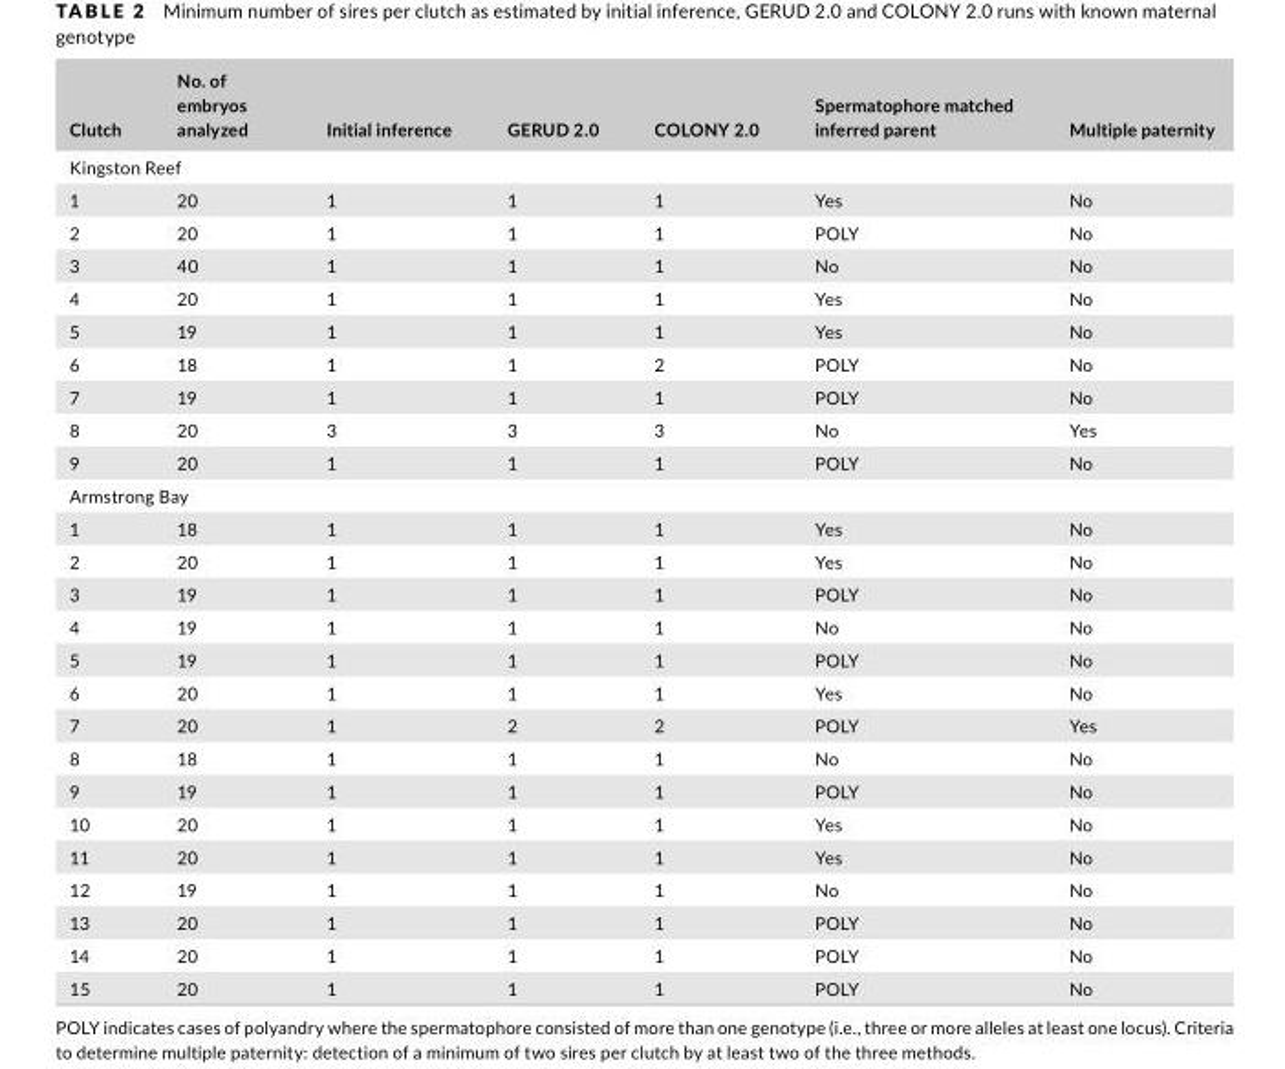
<table><thead><tr><td>Clutch</td><td>No. of embryos analyzed</td><td>Initial inference</td><td>GERUD 2.0</td><td>COLONY 2.0</td><td>Spermatophore matched inferred parent</td><td>Multiple paternity</td></tr></thead><tbody><tr><td colspan="7">Kingston Reef</td></tr><tr><td>1</td><td>20</td><td>1</td><td>1</td><td>1</td><td>Yes</td><td>No</td></tr><tr><td>2</td><td>20</td><td>1</td><td>1</td><td>1</td><td>POLY</td><td>No</td></tr><tr><td>3</td><td>40</td><td>1</td><td>1</td><td>1</td><td>No</td><td>No</td></tr><tr><td>4</td><td>20</td><td>1</td><td>1</td><td>1</td><td>Yes</td><td>No</td></tr><tr><td>5</td><td>19</td><td>1</td><td>1</td><td>1</td><td>Yes</td><td>No</td></tr><tr><td>6</td><td>18</td><td>1</td><td>1</td><td>2</td><td>POLY</td><td>No</td></tr><tr><td>7</td><td>19</td><td>1</td><td>1</td><td>1</td><td>POLY</td><td>No</td></tr><tr><td>8</td><td>20</td><td>3</td><td>3</td><td>3</td><td>No</td><td>Yes</td></tr><tr><td>9</td><td>20</td><td>1</td><td>1</td><td>1</td><td>POLY</td><td>No</td></tr><tr><td colspan="7">Armstrong Bay</td></tr><tr><td>1</td><td>18</td><td>1</td><td>1</td><td>1</td><td>Yes</td><td>No</td></tr><tr><td>2</td><td>20</td><td>1</td><td>1</td><td>1</td><td>Yes</td><td>No</td></tr><tr><td>3</td><td>19</td><td>1</td><td>1</td><td>1</td><td>POLY</td><td>No</td></tr><tr><td>4</td><td>19</td><td>1</td><td>1</td><td>1</td><td>No</td><td>No</td></tr><tr><td>5</td><td>19</td><td>1</td><td>1</td><td>1</td><td>POLY</td><td>No</td></tr><tr><td>6</td><td>20</td><td>1</td><td>1</td><td>1</td><td>Yes</td><td>No</td></tr><tr><td>7</td><td>20</td><td>1</td><td>2</td><td>2</td><td>POLY</td><td>Yes</td></tr><tr><td>8</td><td>18</td><td>1</td><td>1</td><td>1</td><td>No</td><td>No</td></tr><tr><td>9</td><td>19</td><td>1</td><td>1</td><td>1</td><td>POLY</td><td>No</td></tr><tr><td>10</td><td>20</td><td>1</td><td>1</td><td>1</td><td>Yes</td><td>No</td></tr><tr><td>11</td><td>20</td><td>1</td><td>1</td><td>1</td><td>Yes</td><td>No</td></tr><tr><td>12</td><td>19</td><td>1</td><td>1</td><td>1</td><td>No</td><td>No</td></tr><tr><td>13</td><td>20</td><td>1</td><td>1</td><td>1</td><td>POLY</td><td>No</td></tr><tr><td>14</td><td>20</td><td>1</td><td>1</td><td>1</td><td>POLY</td><td>No</td></tr><tr><td>15</td><td>20</td><td>1</td><td>1</td><td>1</td><td>POLY</td><td>No</td></tr></tbody></table>